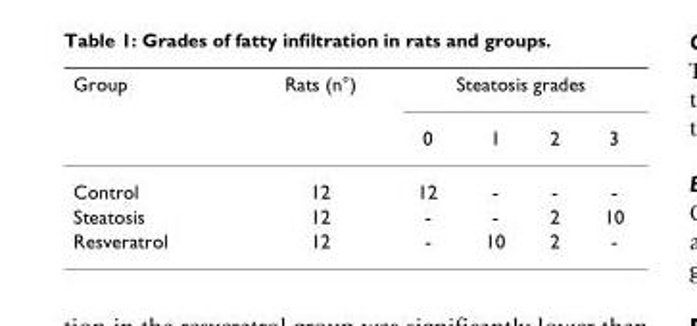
<table><thead><tr><td rowspan="2">Group</td><td rowspan="2">Rats (n°)</td><td colspan="4">Steatosis grades</td></tr><tr><td>0</td><td>1</td><td>2</td><td>3</td></tr></thead><tbody><tr><td>Control</td><td>12</td><td>12</td><td>-</td><td>-</td><td>-</td></tr><tr><td>Steatosis</td><td>12</td><td>-</td><td>-</td><td>2</td><td>10</td></tr><tr><td>Resveratrol</td><td>12</td><td>-</td><td>10</td><td>2</td><td>-</td></tr></tbody></table>